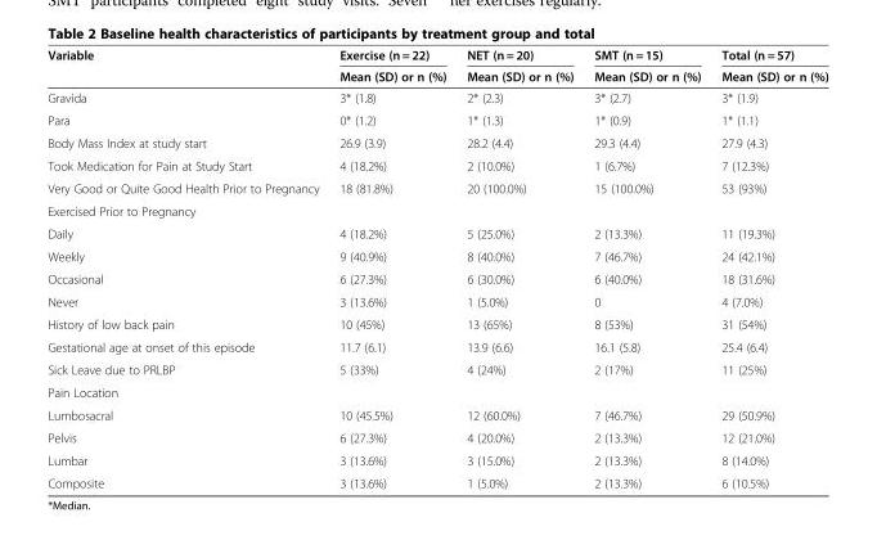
<table><thead><tr><td rowspan="2">Variable</td><td rowspan="2">Exercise (n = 22) Mean (SD) or n (%)</td><td rowspan="2">NET (n = 20) Mean (SD) or n (%)</td><td rowspan="2">SMT (n = 15) Mean (SD) or n (%)</td><td rowspan="2">Total (n = 57) Mean (SD) or n (%)</td></tr><tr></tr></thead><tbody><tr><td>Gravida</td><td>3* (1.8)</td><td>2* (2.3)</td><td>3* (2.7)</td><td>3* (1.9)</td></tr><tr><td>Para</td><td>0* (1.2)</td><td>1* (1.3)</td><td>1* (0.9)</td><td>1* (1.1)</td></tr><tr><td>Body Mass Index at study start</td><td>26.9 (3.9)</td><td>28.2 (4.4)</td><td>29.3 (4.4)</td><td>27.9 (4.3)</td></tr><tr><td>Took Medication for Pain at Study Start</td><td>4 (18.2%)</td><td>2 (10.0%)</td><td>1 (6.7%)</td><td>7 (12.3%)</td></tr><tr><td>Very Good or Quite Good Health Prior to Pregnancy</td><td>18 (81.8%)</td><td>20 (100.0%)</td><td>15 (100.0%)</td><td>53 (93%)</td></tr><tr><td colspan="5">Exercised Prior to Pregnancy</td></tr><tr><td>Daily</td><td>4 (18.2%)</td><td>5 (25.0%)</td><td>2 (13.3%)</td><td>11 (19.3%)</td></tr><tr><td>Weekly</td><td>9 (40.9%)</td><td>8 (40.0%)</td><td>7 (46.7%)</td><td>24 (42.1%)</td></tr><tr><td>Occasional</td><td>6 (27.3%)</td><td>6 (30.0%)</td><td>6 (40.0%)</td><td>18 (31.6%)</td></tr><tr><td>Never</td><td>3 (13.6%)</td><td>1 (5.0%)</td><td>0</td><td>4 (7.0%)</td></tr><tr><td>History of low back pain</td><td>10 (45%)</td><td>13 (65%)</td><td>8 (53%)</td><td>31 (54%)</td></tr><tr><td>Gestational age at onset of this episode</td><td>11.7 (6.1)</td><td>13.9 (6.6)</td><td>16.1 (5.8)</td><td>25.4 (6.4)</td></tr><tr><td>Sick Leave due to PRLBP</td><td>5 (33%)</td><td>4 (24%)</td><td>2 (17%)</td><td>11 (25%)</td></tr><tr><td colspan="5">Pain Location</td></tr><tr><td>Lumbosacral</td><td>10 (45.5%)</td><td>12 (60.0%)</td><td>7 (46.7%)</td><td>29 (50.9%)</td></tr><tr><td>Pelvis</td><td>6 (27.3%)</td><td>4 (20.0%)</td><td>2 (13.3%)</td><td>12 (21.0%)</td></tr><tr><td>Lumbar</td><td>3 (13.6%)</td><td>3 (15.0%)</td><td>2 (13.3%)</td><td>8 (14.0%)</td></tr><tr><td>Composite</td><td>3 (13.6%)</td><td>1 (5.0%)</td><td>2 (13.3%)</td><td>6 (10.5%)</td></tr></tbody></table>